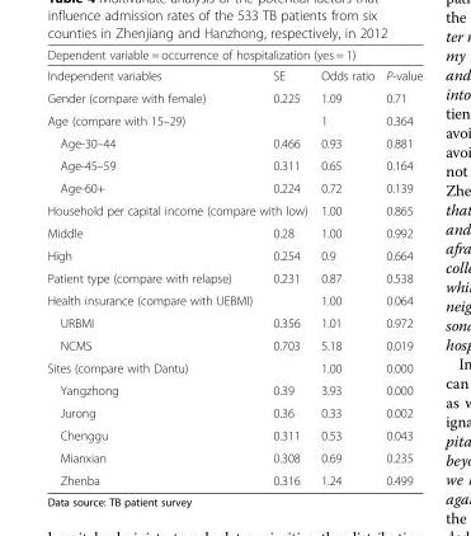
<table><thead><tr><td colspan="4">Dependent variable = occurrence of hospitalization (yes = 1)</td></tr><tr><td>Independent variables</td><td>SE</td><td>Odds ratio</td><td>P-value</td></tr></thead><tbody><tr><td>Gender (compare with female)</td><td>0.225</td><td>1.09</td><td>0.71</td></tr><tr><td>Age (compare with 15–29)</td><td></td><td>1</td><td>0.364</td></tr><tr><td>Age-30–44</td><td>0.466</td><td>0.93</td><td>0.881</td></tr><tr><td>Age-45–59</td><td>0.311</td><td>0.65</td><td>0.164</td></tr><tr><td>Age-60+</td><td>0.224</td><td>0.72</td><td>0.139</td></tr><tr><td colspan="2">Household per capital income (compare with low)</td><td>1.00</td><td>0.865</td></tr><tr><td>Middle</td><td>0.28</td><td>1.00</td><td>0.992</td></tr><tr><td>High</td><td>0.254</td><td>0.9</td><td>0.664</td></tr><tr><td>Patient type (compare with relapse)</td><td>0.231</td><td>0.87</td><td>0.538</td></tr><tr><td>Health insurance (compare with UEBMI)</td><td></td><td>1.00</td><td>0.064</td></tr><tr><td>URBMI</td><td>0.356</td><td>1.01</td><td>0.972</td></tr><tr><td>NCMS</td><td>0.703</td><td>5.18</td><td>0.019</td></tr><tr><td>Sites (compare with Dantu)</td><td></td><td>1.00</td><td>0.000</td></tr><tr><td>Yangzhong</td><td>0.39</td><td>3.93</td><td>0.000</td></tr><tr><td>Jurong</td><td>0.36</td><td>0.33</td><td>0.002</td></tr><tr><td>Chenggu</td><td>0.311</td><td>0.53</td><td>0.043</td></tr><tr><td>Mianxian</td><td>0.308</td><td>0.69</td><td>0.235</td></tr><tr><td>Zhenba</td><td>0.316</td><td>1.24</td><td>0.499</td></tr></tbody></table>